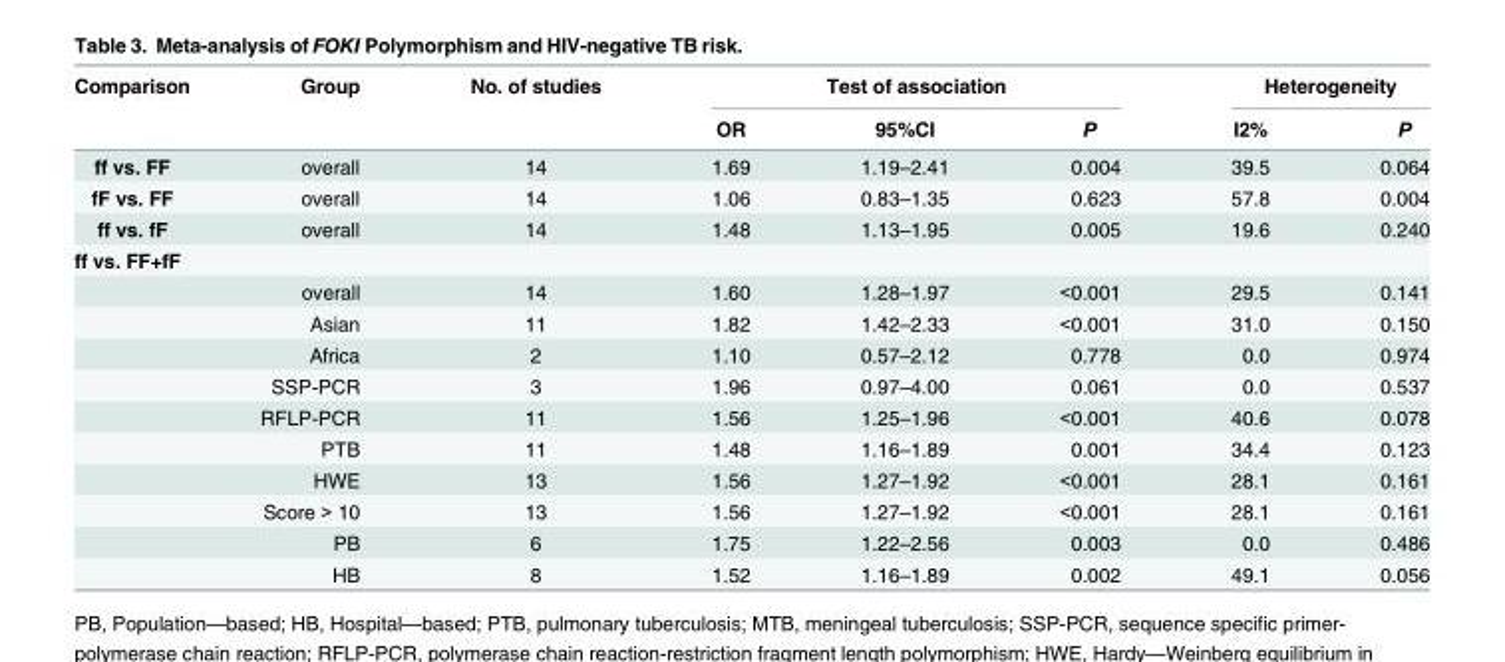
<table><thead><tr><td rowspan="2">Comparison</td><td rowspan="2">Group</td><td rowspan="2">No. of studies</td><td colspan="3">Test of association</td><td colspan="2">Heterogeneity</td></tr><tr><td>OR</td><td>95%CI</td><td>P</td><td>I2%</td><td>P</td></tr></thead><tbody><tr><td>ff vs. FF</td><td>overall</td><td>14</td><td>1.69</td><td>1.19–2.41</td><td>0.004</td><td>39.5</td><td>0.064</td></tr><tr><td>fF vs. FF</td><td>overall</td><td>14</td><td>1.06</td><td>0.83–1.35</td><td>0.623</td><td>57.8</td><td>0.004</td></tr><tr><td>ff vs. fF</td><td>overall</td><td>14</td><td>1.48</td><td>1.13–1.95</td><td>0.005</td><td>19.6</td><td>0.240</td></tr><tr><td colspan="8">ff vs. FF+fF</td></tr><tr><td colspan="2">overall</td><td>14</td><td>1.60</td><td>1.28–1.97</td><td>&lt;0.001</td><td>29.5</td><td>0.141</td></tr><tr><td></td><td>Asian</td><td>11</td><td>1.82</td><td>1.42–2.33</td><td>&lt;0.001</td><td>31.0</td><td>0.150</td></tr><tr><td></td><td>Africa</td><td>2</td><td>1.10</td><td>0.57–2.12</td><td>0.778</td><td>0.0</td><td>0.974</td></tr><tr><td colspan="2">SSP-PCR</td><td>3</td><td>1.96</td><td>0.97–4.00</td><td>0.061</td><td>0.0</td><td>0.537</td></tr><tr><td colspan="2">RFLP-PCR</td><td>11</td><td>1.56</td><td>1.25–1.96</td><td>&lt;0.001</td><td>40.6</td><td>0.078</td></tr><tr><td colspan="2">PTB</td><td>11</td><td>1.48</td><td>1.16–1.89</td><td>0.001</td><td>34.4</td><td>0.123</td></tr><tr><td colspan="2">HWE</td><td>13</td><td>1.56</td><td>1.27–1.92</td><td>&lt;0.001</td><td>28.1</td><td>0.161</td></tr><tr><td colspan="2">Score &gt; 10</td><td>13</td><td>1.56</td><td>1.27–1.92</td><td>&lt;0.001</td><td>28.1</td><td>0.161</td></tr><tr><td></td><td>PB</td><td>6</td><td>1.75</td><td>1.22–2.56</td><td>0.003</td><td>0.0</td><td>0.486</td></tr><tr><td></td><td>HB</td><td>8</td><td>1.52</td><td>1.16–1.89</td><td>0.002</td><td>49.1</td><td>0.056</td></tr></tbody></table>